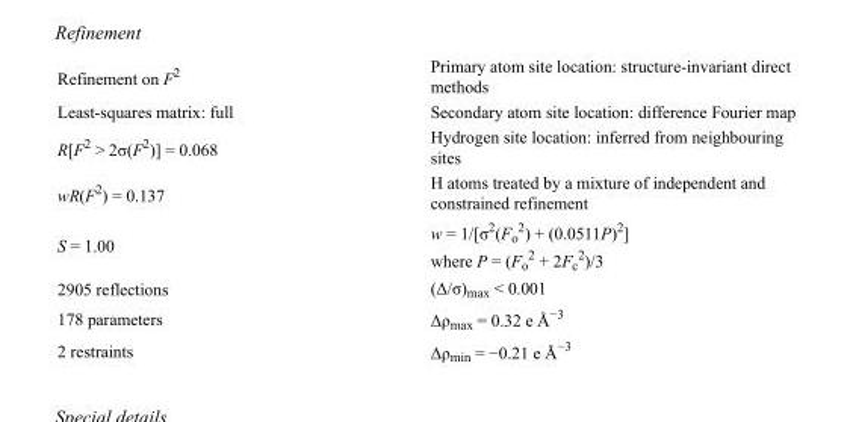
<table><tbody><tr><td>Refinement on F<sup>2</sup></td><td>Primary atom site location: structure-invariant direct methods</td></tr><tr><td>Least-squares matrix: full</td><td>Secondary atom site location: difference Fourier map</td></tr><tr><td>R[F<sup>2</sup> &gt; 2σ(F<sup>2</sup>)] = 0.068</td><td>Hydrogen site location: inferred from neighbouring sites</td></tr><tr><td>wR(F<sup>2</sup>) = 0.137</td><td>H atoms treated by a mixture of independent and constrained refinement</td></tr><tr><td>S = 1.00</td><td>w = 1/[σ<sup>2</sup>(F<sub>o</sub> <sup>2</sup>) + (0.0511P)<sup>2</sup>] where P = (F<sub>o</sub> <sup>2</sup> + 2F<sub>c</sub> <sup>2</sup>)/3</td></tr><tr><td>2905 reflections</td><td>(Δ/σ)<sub>max</sub> &lt; 0.001</td></tr><tr><td>178 parameters</td><td>Δρ<sub>max</sub> = 0.32 e Å<sup>−3</sup></td></tr><tr><td>2 restraints</td><td>Δρ<sub>min</sub> = −0.21 e Å<sup>−3</sup></td></tr></tbody></table>